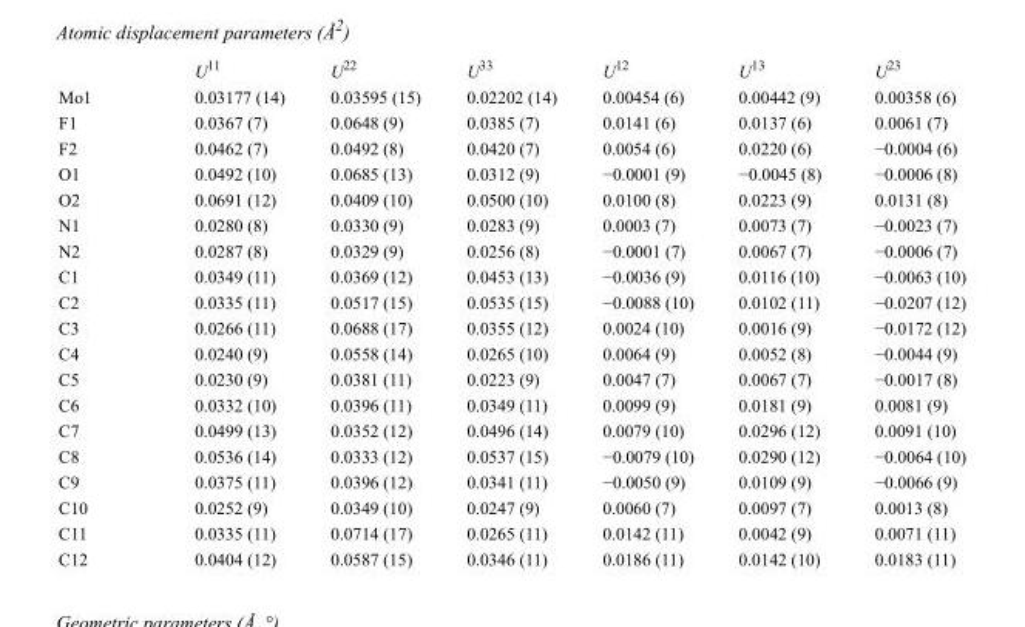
<table><thead><tr><td></td><td>U<sup>11</sup></td><td>U<sup>22</sup></td><td>U<sup>33</sup></td><td>U<sup>12</sup></td><td>U<sup>13</sup></td><td>U<sup>23</sup></td></tr></thead><tbody><tr><td>Mo1</td><td>0.03177 (14)</td><td>0.03595 (15)</td><td>0.02202 (14)</td><td>0.00454 (6)</td><td>0.00442 (9)</td><td>0.00358 (6)</td></tr><tr><td>F1</td><td>0.0367 (7)</td><td>0.0648 (9)</td><td>0.0385 (7)</td><td>0.0141 (6)</td><td>0.0137 (6)</td><td>0.0061 (7)</td></tr><tr><td>F2</td><td>0.0462 (7)</td><td>0.0492 (8)</td><td>0.0420 (7)</td><td>0.0054 (6)</td><td>0.0220 (6)</td><td>−0.0004 (6)</td></tr><tr><td>O1</td><td>0.0492 (10)</td><td>0.0685 (13)</td><td>0.0312 (9)</td><td>−0.0001 (9)</td><td>−0.0045 (8)</td><td>−0.0006 (8)</td></tr><tr><td>O2</td><td>0.0691 (12)</td><td>0.0409 (10)</td><td>0.0500 (10)</td><td>0.0100 (8)</td><td>0.0223 (9)</td><td>0.0131 (8)</td></tr><tr><td>N1</td><td>0.0280 (8)</td><td>0.0330 (9)</td><td>0.0283 (9)</td><td>0.0003 (7)</td><td>0.0073 (7)</td><td>−0.0023 (7)</td></tr><tr><td>N2</td><td>0.0287 (8)</td><td>0.0329 (9)</td><td>0.0256 (8)</td><td>−0.0001 (7)</td><td>0.0067 (7)</td><td>−0.0006 (7)</td></tr><tr><td>C1</td><td>0.0349 (11)</td><td>0.0369 (12)</td><td>0.0453 (13)</td><td>−0.0036 (9)</td><td>0.0116 (10)</td><td>−0.0063 (10)</td></tr><tr><td>C2</td><td>0.0335 (11)</td><td>0.0517 (15)</td><td>0.0535 (15)</td><td>−0.0088 (10)</td><td>0.0102 (11)</td><td>−0.0207 (12)</td></tr><tr><td>C3</td><td>0.0266 (11)</td><td>0.0688 (17)</td><td>0.0355 (12)</td><td>0.0024 (10)</td><td>0.0016 (9)</td><td>−0.0172 (12)</td></tr><tr><td>C4</td><td>0.0240 (9)</td><td>0.0558 (14)</td><td>0.0265 (10)</td><td>0.0064 (9)</td><td>0.0052 (8)</td><td>−0.0044 (9)</td></tr><tr><td>C5</td><td>0.0230 (9)</td><td>0.0381 (11)</td><td>0.0223 (9)</td><td>0.0047 (7)</td><td>0.0067 (7)</td><td>−0.0017 (8)</td></tr><tr><td>C6</td><td>0.0332 (10)</td><td>0.0396 (11)</td><td>0.0349 (11)</td><td>0.0099 (9)</td><td>0.0181 (9)</td><td>0.0081 (9)</td></tr><tr><td>C7</td><td>0.0499 (13)</td><td>0.0352 (12)</td><td>0.0496 (14)</td><td>0.0079 (10)</td><td>0.0296 (12)</td><td>0.0091 (10)</td></tr><tr><td>C8</td><td>0.0536 (14)</td><td>0.0333 (12)</td><td>0.0537 (15)</td><td>−0.0079 (10)</td><td>0.0290 (12)</td><td>−0.0064 (10)</td></tr><tr><td>C9</td><td>0.0375 (11)</td><td>0.0396 (12)</td><td>0.0341 (11)</td><td>−0.0050 (9)</td><td>0.0109 (9)</td><td>−0.0066 (9)</td></tr><tr><td>C10</td><td>0.0252 (9)</td><td>0.0349 (10)</td><td>0.0247 (9)</td><td>0.0060 (7)</td><td>0.0097 (7)</td><td>0.0013 (8)</td></tr><tr><td>C11</td><td>0.0335 (11)</td><td>0.0714 (17)</td><td>0.0265 (11)</td><td>0.0142 (11)</td><td>0.0042 (9)</td><td>0.0071 (11)</td></tr><tr><td>C12</td><td>0.0404 (12)</td><td>0.0587 (15)</td><td>0.0346 (11)</td><td>0.0186 (11)</td><td>0.0142 (10)</td><td>0.0183 (11)</td></tr></tbody></table>